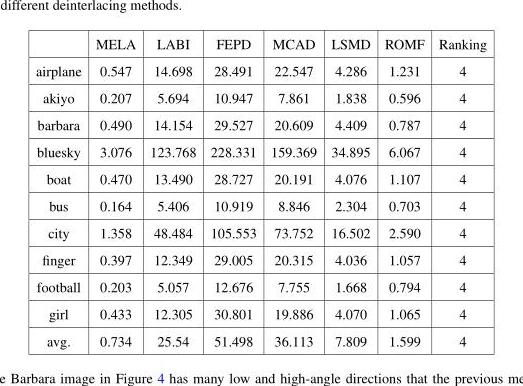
<table><thead><tr><td></td><td>MELA</td><td>LABI</td><td>FEPD</td><td>MCAD</td><td>LSMD</td><td>ROMF</td><td>Ranking</td></tr></thead><tbody><tr><td>airplane</td><td>0.547</td><td>14.698</td><td>28.491</td><td>22.547</td><td>4.286</td><td>1.231</td><td>4</td></tr><tr><td>akiyo</td><td>0.207</td><td>5.694</td><td>10.947</td><td>7.861</td><td>1.838</td><td>0.596</td><td>4</td></tr><tr><td>barbara</td><td>0.490</td><td>14.154</td><td>29.527</td><td>20.609</td><td>4.409</td><td>0.787</td><td>4</td></tr><tr><td>bluesky</td><td>3.076</td><td>123.768</td><td>228.331</td><td>159.369</td><td>34.895</td><td>6.067</td><td>4</td></tr><tr><td>boat</td><td>0.470</td><td>13.490</td><td>28.727</td><td>20.191</td><td>4.076</td><td>1.107</td><td>4</td></tr><tr><td>bus</td><td>0.164</td><td>5.406</td><td>10.919</td><td>8.846</td><td>2.304</td><td>0.703</td><td>4</td></tr><tr><td>city</td><td>1.358</td><td>48.484</td><td>105.553</td><td>73.752</td><td>16.502</td><td>2.590</td><td>4</td></tr><tr><td>finger</td><td>0.397</td><td>12.349</td><td>29.005</td><td>20.315</td><td>4.036</td><td>1.057</td><td>4</td></tr><tr><td>football</td><td>0.203</td><td>5.057</td><td>12.676</td><td>7.755</td><td>1.668</td><td>0.794</td><td>4</td></tr><tr><td>girl</td><td>0.433</td><td>12.305</td><td>30.801</td><td>19.886</td><td>4.070</td><td>1.065</td><td>4</td></tr><tr><td>avg.</td><td>0.734</td><td>25.54</td><td>51.498</td><td>36.113</td><td>7.809</td><td>1.599</td><td>4</td></tr></tbody></table>